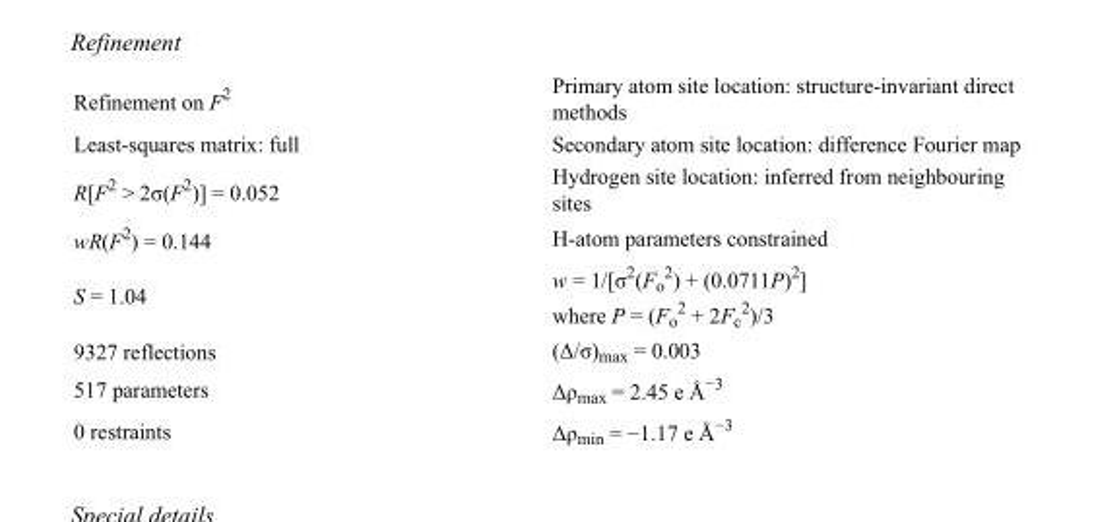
<table><tbody><tr><td>Refinement on F<sup>2</sup></td><td>Primary atom site location: structure-invariant direct methods</td></tr><tr><td>Least-squares matrix: full</td><td>Secondary atom site location: difference Fourier map</td></tr><tr><td>R[F<sup>2</sup> &gt; 2σ(F<sup>2</sup>)] = 0.052</td><td>Hydrogen site location: inferred from neighbouring sites</td></tr><tr><td>wR(F<sup>2</sup>) = 0.144</td><td>H-atom parameters constrained</td></tr><tr><td>S = 1.04</td><td>w = 1/[σ<sup>2</sup>(F<sub>o</sub> <sup>2</sup>) + (0.0711P)<sup>2</sup>] where P = (F<sub>o</sub> <sup>2</sup> + 2F<sub>c</sub> <sup>2</sup>)/3</td></tr><tr><td>9327 reflections</td><td>(Δ/σ)<sub>max</sub> = 0.003</td></tr><tr><td>517 parameters</td><td>Δρ<sub>max</sub> = 2.45 e Å<sup>−3</sup></td></tr><tr><td>0 restraints</td><td>Δρ<sub>min</sub> = −1.17 e Å<sup>−3</sup></td></tr></tbody></table>